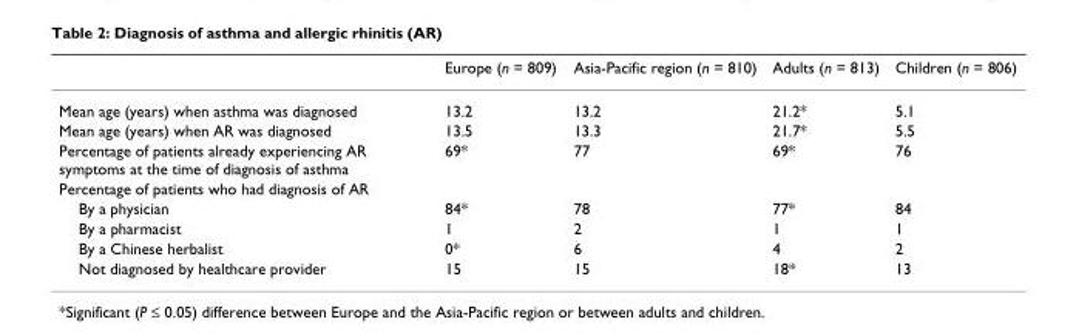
<table><thead><tr><td></td><td>Europe (n = 809)</td><td>Asia-Pacific region (n = 810)</td><td>Adults (n = 813)</td><td>Children (n = 806)</td></tr></thead><tbody><tr><td>Mean age (years) when asthma was diagnosed</td><td>13.2</td><td>13.2</td><td>21.2*</td><td>5.1</td></tr><tr><td>Mean age (years) when AR was diagnosed</td><td>13.5</td><td>13.3</td><td>21.7*</td><td>5.5</td></tr><tr><td>Percentage of patients already experiencing AR symptoms at the time of diagnosis of asthma</td><td>69*</td><td>77</td><td>69*</td><td>76</td></tr><tr><td colspan="5">Percentage of patients who had diagnosis of AR</td></tr><tr><td>By a physician</td><td>84*</td><td>78</td><td>77*</td><td>84</td></tr><tr><td>By a pharmacist</td><td>1</td><td>2</td><td>1</td><td>1</td></tr><tr><td>By a Chinese herbalist</td><td>0*</td><td>6</td><td>4</td><td>2</td></tr><tr><td>Not diagnosed by healthcare provider</td><td>15</td><td>15</td><td>18*</td><td>13</td></tr></tbody></table>